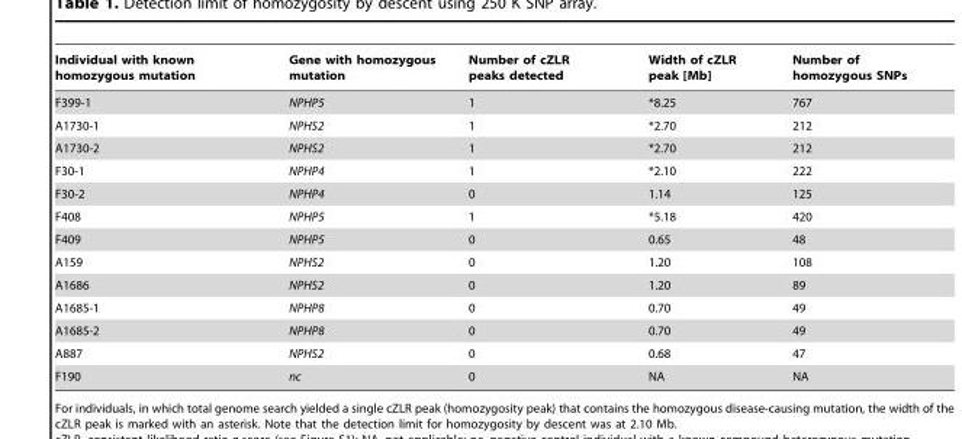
<table><thead><tr><td>Individual with known homozygous mutation</td><td>Gene with homozygous mutation</td><td>Number of cZLR peaks detected</td><td>Width of cZLR peak [Mb]</td><td>Number of homozygous SNPs</td></tr></thead><tbody><tr><td>F399-1</td><td>NPHP5</td><td>1</td><td>*8.25</td><td>767</td></tr><tr><td>A1730-1</td><td>NPHS2</td><td>1</td><td>*2.70</td><td>212</td></tr><tr><td>A1730-2</td><td>NPHS2</td><td>1</td><td>*2.70</td><td>212</td></tr><tr><td>F30-1</td><td>NPHP4</td><td>1</td><td>*2.10</td><td>222</td></tr><tr><td>F30-2</td><td>NPHP4</td><td>0</td><td>1.14</td><td>125</td></tr><tr><td>F408</td><td>NPHP5</td><td>1</td><td>*5.18</td><td>420</td></tr><tr><td>F409</td><td>NPHP5</td><td>0</td><td>0.65</td><td>48</td></tr><tr><td>A159</td><td>NPHS2</td><td>0</td><td>1.20</td><td>108</td></tr><tr><td>A1686</td><td>NPHS2</td><td>0</td><td>1.20</td><td>89</td></tr><tr><td>A1685-1</td><td>NPHP8</td><td>0</td><td>0.70</td><td>49</td></tr><tr><td>A1685-2</td><td>NPHP8</td><td>0</td><td>0.70</td><td>49</td></tr><tr><td>A887</td><td>NPHS2</td><td>0</td><td>0.68</td><td>47</td></tr><tr><td>F190</td><td>nc</td><td>0</td><td>NA</td><td>NA</td></tr></tbody></table>